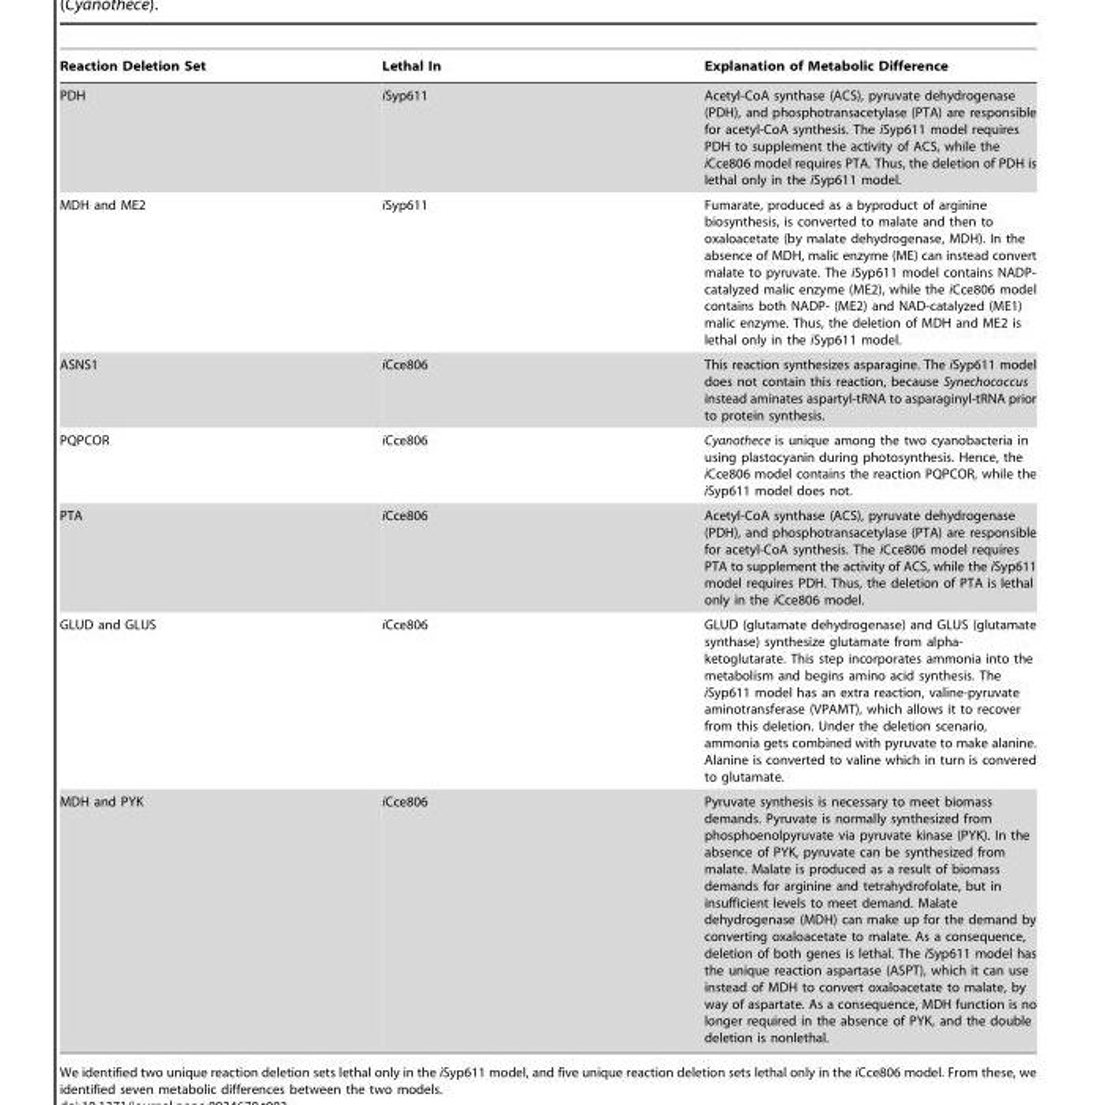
<table><thead><tr><td>Reaction Deletion Set</td><td>Lethal In</td><td>Explanation of Metabolic Difference</td></tr></thead><tbody><tr><td>PDH</td><td>iSyp611</td><td>Acetyl-CoA synthase (ACS), pyruvate dehydrogenase (PDH), and phosphotransacetylase (PTA) are responsible for acetyl-CoA synthesis. The iSyp611 model requires PDH to supplement the activity of ACS, while the iCce806 model requires PTA. Thus, the deletion of PDH is lethal only in the iSyp611 model.</td></tr><tr><td>MDH and ME2</td><td>iSyp611</td><td>Fumarate, produced as a byproduct of arginine biosynthesis, is converted to malate and then to oxaloacetate (by malate dehydrogenase, MDH). In the absence of MDH, malic enzyme (ME) can instead convert malate to pyruvate. The iSyp611 model contains NADP- catalyzed malic enzyme (ME2), while the iCce806 model contains both NADP- (ME2) and NAD-catalyzed (ME1) malic enzyme. Thus, the deletion of MDH and ME2 is lethal only in the iSyp611 model.</td></tr><tr><td>ASNS1</td><td>iCce806</td><td>This reaction synthesizes asparagine. The iSyp611 model does not contain this reaction, because Synechococcus instead aminates aspartyl-tRNA to asparaginyl-tRNA prior to protein synthesis.</td></tr><tr><td>PQPCOR</td><td>iCce806</td><td>Cyanothece is unique among the two cyanobacteria in using plastocyanin during photosynthesis. Hence, the iCce806 model contains the reaction PQPCOR, while the iSyp611 model does not.</td></tr><tr><td>PTA</td><td>iCce806</td><td>Acetyl-CoA synthase (ACS), pyruvate dehydrogenase (PDH), and phosphotransacetylase (PTA) are responsible for acetyl-CoA synthesis. The iCce806 model requires PTA to supplement the activity of ACS, while the iSyp611 model requires PDH. Thus, the deletion of PTA is lethal only in the iCce806 model.</td></tr><tr><td>GLUD and GLUS</td><td>iCce806</td><td>GLUD (glutamate dehydrogenase) and GLUS (glutamate synthase) synthesize glutamate from alpha- ketoglutarate. This step incorporates ammonia into the metabolism and begins amino acid synthesis. The iSyp611 model has an extra reaction, valine-pyruvate aminotransferase (VPAMT), which allows it to recover from this deletion. Under the deletion scenario, ammonia gets combined with pyruvate to make alanine. Alanine is converted to valine which in turn is convered to glutamate.</td></tr><tr><td>MDH and PYK</td><td>iCce806</td><td>Pyruvate synthesis is necessary to meet biomass demands. Pyruvate is normally synthesized from phosphoenolpyruvate via pyruvate kinase (PYK). In the absence of PYK, pyruvate can be synthesized from malate. Malate is produced as a result of biomass demands for arginine and tetrahydrofolate, but in insufficient levels to meet demand. Malate dehydrogenase (MDH) can make up for the demand by converting oxaloacetate to malate. As a consequence, deletion of both genes is lethal. The iSyp611 model has the unique reaction aspartase (ASPT), which it can use instead of MDH to convert oxaloacetate to malate, by way of aspartate. As a consequence, MDH function is no longer required in the absence of PYK, and the double deletion is nonlethal.</td></tr></tbody></table>